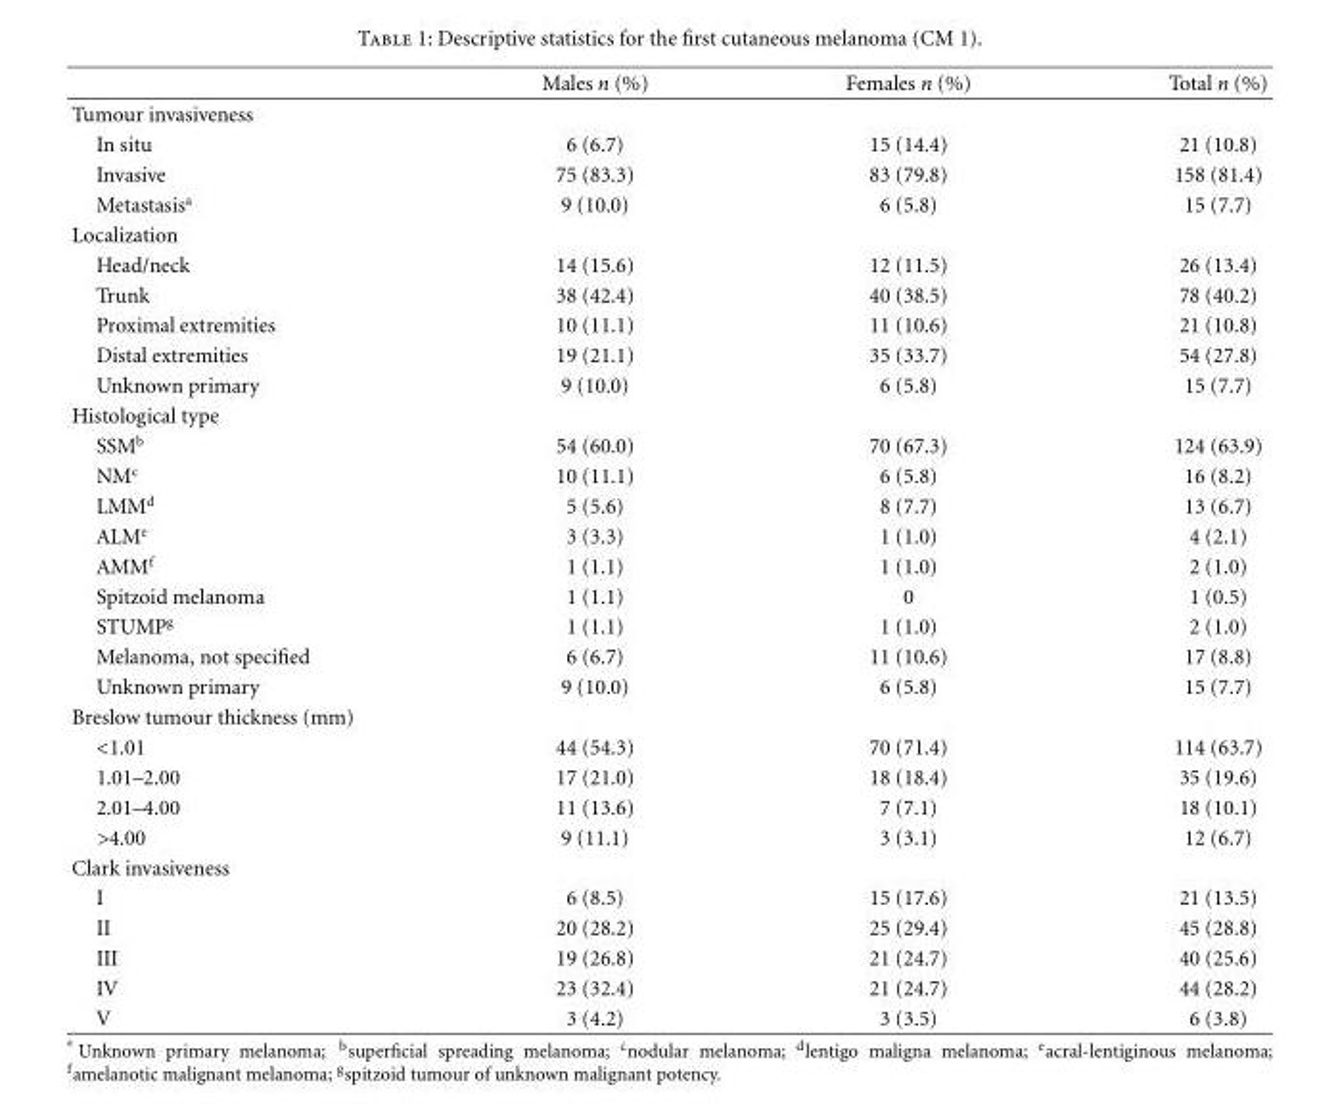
<table><thead><tr><td></td><td>Males n (%)</td><td>Females n (%)</td><td>Total n (%)</td></tr></thead><tbody><tr><td colspan="4">Tumour invasiveness</td></tr><tr><td>In situ</td><td>6 (6.7)</td><td>15 (14.4)</td><td>21 (10.8)</td></tr><tr><td>Invasive</td><td>75 (83.3)</td><td>83 (79.8)</td><td>158 (81.4)</td></tr><tr><td>Metastasis<sup>a</sup></td><td>9 (10.0)</td><td>6 (5.8)</td><td>15 (7.7)</td></tr><tr><td colspan="4">Localization</td></tr><tr><td>Head/neck</td><td>14 (15.6)</td><td>12 (11.5)</td><td>26 (13.4)</td></tr><tr><td>Trunk</td><td>38 (42.4)</td><td>40 (38.5)</td><td>78 (40.2)</td></tr><tr><td>Proximal extremities</td><td>10 (11.1)</td><td>11 (10.6)</td><td>21 (10.8)</td></tr><tr><td>Distal extremities</td><td>19 (21.1)</td><td>35 (33.7)</td><td>54 (27.8)</td></tr><tr><td>Unknown primary</td><td>9 (10.0)</td><td>6 (5.8)</td><td>15 (7.7)</td></tr><tr><td colspan="4">Histological type</td></tr><tr><td>SSM<sup>b</sup></td><td>54 (60.0)</td><td>70 (67.3)</td><td>124 (63.9)</td></tr><tr><td>NM<sup>c</sup></td><td>10 (11.1)</td><td>6 (5.8)</td><td>16 (8.2)</td></tr><tr><td>LMM<sup>d</sup></td><td>5 (5.6)</td><td>8 (7.7)</td><td>13 (6.7)</td></tr><tr><td>ALM<sup>e</sup></td><td>3 (3.3)</td><td>1 (1.0)</td><td>4 (2.1)</td></tr><tr><td>AMM<sup>f</sup></td><td>1 (1.1)</td><td>1 (1.0)</td><td>2 (1.0)</td></tr><tr><td>Spitzoid melanoma</td><td>1 (1.1)</td><td>0</td><td>1 (0.5)</td></tr><tr><td>STUMP<sup>g</sup></td><td>1 (1.1)</td><td>1 (1.0)</td><td>2 (1.0)</td></tr><tr><td>Melanoma, not specified</td><td>6 (6.7)</td><td>11 (10.6)</td><td>17 (8.8)</td></tr><tr><td>Unknown primary</td><td>9 (10.0)</td><td>6 (5.8)</td><td>15 (7.7)</td></tr><tr><td colspan="4">Breslow tumour thickness (mm)</td></tr><tr><td>&lt;1.01</td><td>44 (54.3)</td><td>70 (71.4)</td><td>114 (63.7)</td></tr><tr><td>1.01–2.00</td><td>17 (21.0)</td><td>18 (18.4)</td><td>35 (19.6)</td></tr><tr><td>2.01–4.00</td><td>11 (13.6)</td><td>7 (7.1)</td><td>18 (10.1)</td></tr><tr><td>&gt;4.00</td><td>9 (11.1)</td><td>3 (3.1)</td><td>12 (6.7)</td></tr><tr><td colspan="4">Clark invasiveness</td></tr><tr><td>I</td><td>6 (8.5)</td><td>15 (17.6)</td><td>21 (13.5)</td></tr><tr><td>II</td><td>20 (28.2)</td><td>25 (29.4)</td><td>45 (28.8)</td></tr><tr><td>III</td><td>19 (26.8)</td><td>21 (24.7)</td><td>40 (25.6)</td></tr><tr><td>IV</td><td>23 (32.4)</td><td>21 (24.7)</td><td>44 (28.2)</td></tr><tr><td>V</td><td>3 (4.2)</td><td>3 (3.5)</td><td>6 (3.8)</td></tr></tbody></table>